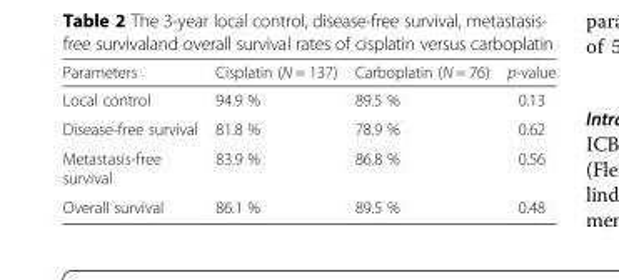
<table><thead><tr><td>Parameters</td><td>Cisplatin (N = 137)</td><td>Carboplatin (N = 76)</td><td>p-value</td></tr></thead><tbody><tr><td>Local control</td><td>94.9 %</td><td>89.5 %</td><td>0.13</td></tr><tr><td>Disease-free survival</td><td>81.8 %</td><td>78.9 %</td><td>0.62</td></tr><tr><td>Metastasis-free survival</td><td>83.9 %</td><td>86.8 %</td><td>0.56</td></tr><tr><td>Overall survival</td><td>86.1 %</td><td>89.5 %</td><td>0.48</td></tr></tbody></table>